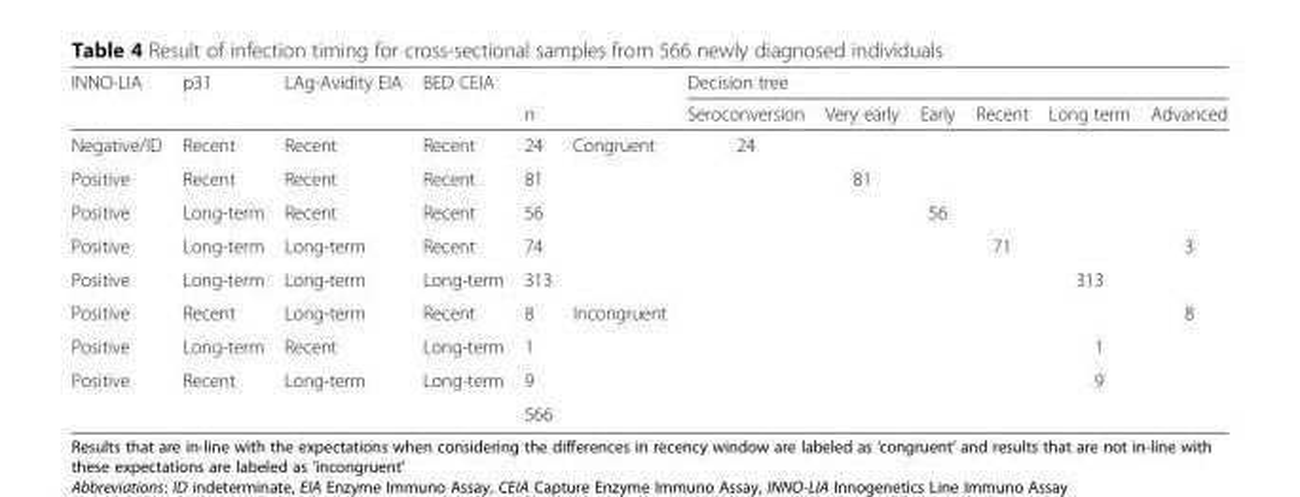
<table><thead><tr><td rowspan="2">INNO-LIA</td><td rowspan="2">p31</td><td rowspan="2">LAg-Avidity EIA</td><td rowspan="2">BED CEIA</td><td rowspan="2">n</td><td rowspan="2"></td><td colspan="6">Decision tree</td></tr><tr><td>Seroconversion</td><td>Very early</td><td>Early</td><td>Recent</td><td>Long term</td><td>Advanced</td></tr></thead><tbody><tr><td>Negative/ID</td><td>Recent</td><td>Recent</td><td>Recent</td><td>24</td><td rowspan="5">Congruent</td><td>24</td><td></td><td></td><td></td><td></td><td></td></tr><tr><td>Positive</td><td>Recent</td><td>Recent</td><td>Recent</td><td>81</td><td></td><td>81</td><td></td><td></td><td></td><td></td></tr><tr><td>Positive</td><td>Long-term</td><td>Recent</td><td>Recent</td><td>56</td><td></td><td></td><td>56</td><td></td><td></td><td></td></tr><tr><td>Positive</td><td>Long-term</td><td>Long-term</td><td>Recent</td><td>74</td><td></td><td></td><td></td><td>71</td><td></td><td>3</td></tr><tr><td>Positive</td><td>Long-term</td><td>Long-term</td><td>Long-term</td><td>313</td><td></td><td></td><td></td><td></td><td>313</td><td></td></tr><tr><td>Positive</td><td>Recent</td><td>Long-term</td><td>Recent</td><td>8</td><td rowspan="3">Incongruent</td><td></td><td></td><td></td><td></td><td></td><td>8</td></tr><tr><td>Positive</td><td>Long-term</td><td>Recent</td><td>Long-term</td><td>1</td><td></td><td></td><td></td><td></td><td>1</td><td></td></tr><tr><td rowspan="2">Positive</td><td>Recent</td><td>Long-term</td><td>Long-term</td><td>9</td><td></td><td></td><td></td><td></td><td>9</td><td></td></tr><tr><td></td><td></td><td></td><td>566</td><td></td><td></td><td></td><td></td><td></td><td></td><td></td></tr></tbody></table>